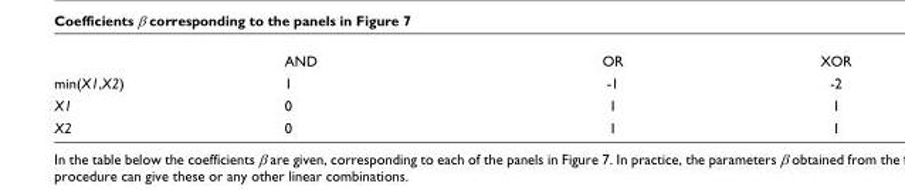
<table><thead><tr><td></td><td>AND</td><td>OR</td><td>XOR</td></tr></thead><tbody><tr><td>min(X1,X2)</td><td>1</td><td>-1</td><td>-2</td></tr><tr><td>X1</td><td>0</td><td>1</td><td>1</td></tr><tr><td>X2</td><td>0</td><td>1</td><td>1</td></tr></tbody></table>